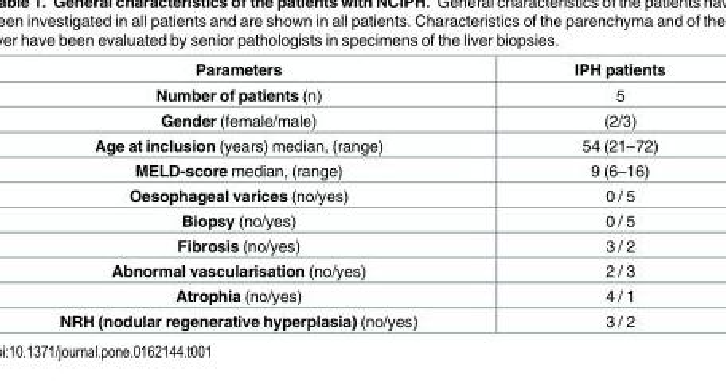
<table><thead><tr><td>Parameters</td><td>IPH patients</td></tr></thead><tbody><tr><td>Number of patients (n)</td><td>5</td></tr><tr><td>Gender (female/male)</td><td>(2/3)</td></tr><tr><td>Age at inclusion (years) median, (range)</td><td>54 (21–72)</td></tr><tr><td>MELD-score median, (range)</td><td>9 (6–16)</td></tr><tr><td>Oesophageal varices (no/yes)</td><td>0 / 5</td></tr><tr><td>Biopsy (no/yes)</td><td>0 / 5</td></tr><tr><td>Fibrosis (no/yes)</td><td>3 / 2</td></tr><tr><td>Abnormal vascularisation (no/yes)</td><td>2 / 3</td></tr><tr><td>Atrophia (no/yes)</td><td>4 / 1</td></tr><tr><td>NRH (nodular regenerative hyperplasia) (no/yes)</td><td>3 / 2</td></tr></tbody></table>